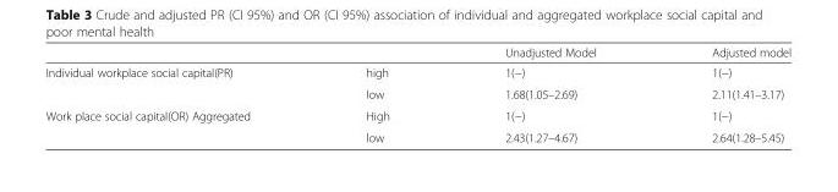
<table><thead><tr><td></td><td></td><td>Unadjusted Model</td><td>Adjusted model</td></tr></thead><tbody><tr><td rowspan="2">Individual workplace social capital(PR)</td><td>high</td><td>1(−)</td><td>1(−)</td></tr><tr><td>low</td><td>1.68(1.05–2.69)</td><td>2.11(1.41–3.17)</td></tr><tr><td rowspan="2">Work place social capital(OR) Aggregated</td><td>High</td><td>1(−)</td><td>1(−)</td></tr><tr><td>low</td><td>2.43(1.27–4.67)</td><td>2.64(1.28–5.45)</td></tr></tbody></table>